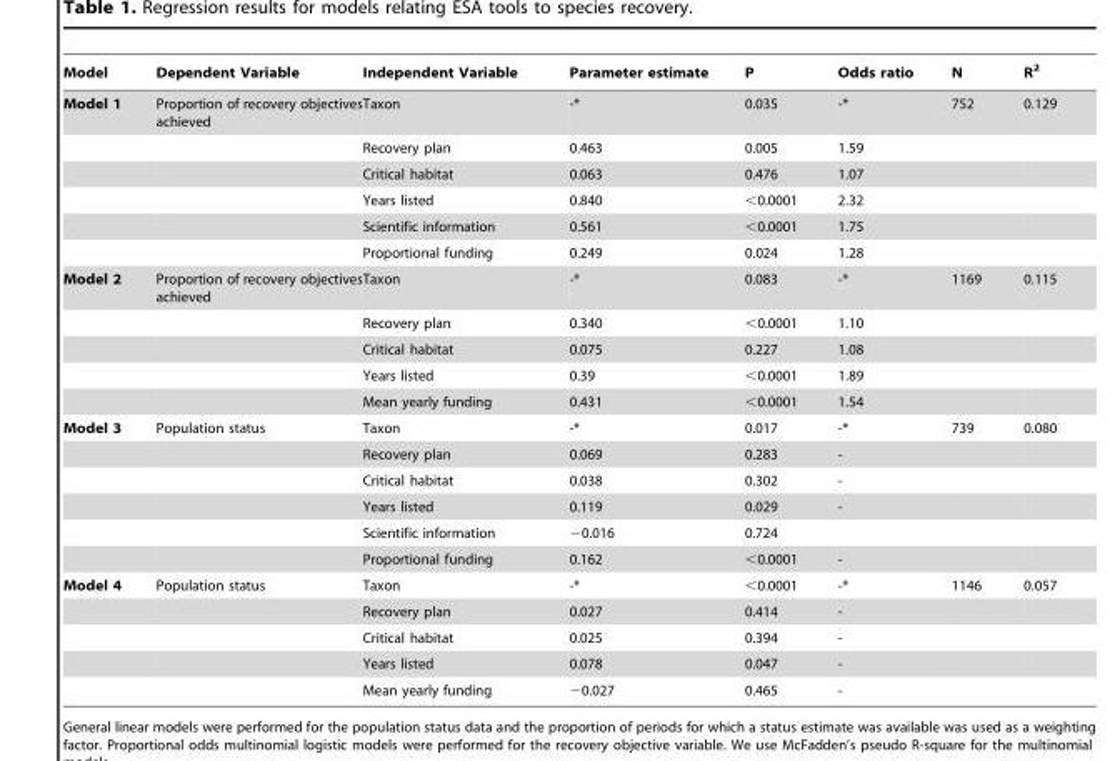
<table><thead><tr><td>Model</td><td>Dependent Variable</td><td>Independent Variable</td><td>Parameter estimate</td><td>P</td><td>Odds ratio</td><td>N</td><td>R<sup>2</sup></td></tr></thead><tbody><tr><td rowspan="6">Model 1</td><td>Proportion of recovery objectives achieved</td><td>Taxon</td><td>-*</td><td>0.035</td><td>-*</td><td>752</td><td>0.129</td></tr><tr><td></td><td>Recovery plan</td><td>0.463</td><td>0.005</td><td>1.59</td><td></td><td></td></tr><tr><td></td><td>Critical habitat</td><td>0.063</td><td>0.476</td><td>1.07</td><td></td><td></td></tr><tr><td></td><td>Years listed</td><td>0.840</td><td>&lt;0.0001</td><td>2.32</td><td></td><td></td></tr><tr><td></td><td>Scientific information</td><td>0.561</td><td>&lt;0.0001</td><td>1.75</td><td></td><td></td></tr><tr><td></td><td>Proportional funding</td><td>0.249</td><td>0.024</td><td>1.28</td><td></td><td></td></tr><tr><td rowspan="5">Model 2</td><td>Proportion of recovery objectives achieved</td><td>Taxon</td><td>-*</td><td>0.083</td><td>-*</td><td>1169</td><td>0.115</td></tr><tr><td></td><td>Recovery plan</td><td>0.340</td><td>&lt;0.0001</td><td>1.10</td><td></td><td></td></tr><tr><td></td><td>Critical habitat</td><td>0.075</td><td>0.227</td><td>1.08</td><td></td><td></td></tr><tr><td></td><td>Years listed</td><td>0.39</td><td>&lt;0.0001</td><td>1.89</td><td></td><td></td></tr><tr><td></td><td>Mean yearly funding</td><td>0.431</td><td>&lt;0.0001</td><td>1.54</td><td></td><td></td></tr><tr><td rowspan="6">Model 3</td><td>Population status</td><td>Taxon</td><td>-*</td><td>0.017</td><td>-*</td><td>739</td><td>0.080</td></tr><tr><td></td><td>Recovery plan</td><td>0.069</td><td>0.283</td><td>-</td><td></td><td></td></tr><tr><td></td><td>Critical habitat</td><td>0.038</td><td>0.302</td><td>-</td><td></td><td></td></tr><tr><td></td><td>Years listed</td><td>0.119</td><td>0.029</td><td>-</td><td></td><td></td></tr><tr><td></td><td>Scientific information</td><td>−0.016</td><td>0.724</td><td></td><td></td><td></td></tr><tr><td></td><td>Proportional funding</td><td>0.162</td><td>&lt;0.0001</td><td>-</td><td></td><td></td></tr><tr><td rowspan="5">Model 4</td><td>Population status</td><td>Taxon</td><td>-*</td><td>&lt;0.0001</td><td>-*</td><td>1146</td><td>0.057</td></tr><tr><td></td><td>Recovery plan</td><td>0.027</td><td>0.414</td><td>-</td><td></td><td></td></tr><tr><td></td><td>Critical habitat</td><td>0.025</td><td>0.394</td><td>-</td><td></td><td></td></tr><tr><td></td><td>Years listed</td><td>0.078</td><td>0.047</td><td>-</td><td></td><td></td></tr><tr><td></td><td>Mean yearly funding</td><td>−0.027</td><td>0.465</td><td>-</td><td></td><td></td></tr></tbody></table>